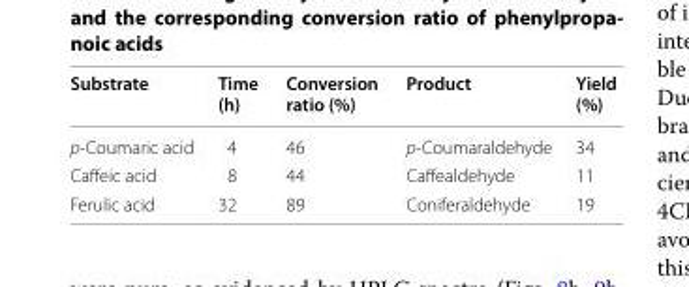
<table><thead><tr><td>Substrate</td><td>Time (h)</td><td>Conversion ratio (%)</td><td>Product</td><td>Yield (%)</td></tr></thead><tbody><tr><td>p-Coumaric acid</td><td>4</td><td>46</td><td>p-Coumaraldehyde</td><td>34</td></tr><tr><td>Caffeic acid</td><td>8</td><td>44</td><td>Caffealdehyde</td><td>11</td></tr><tr><td>Ferulic acid</td><td>32</td><td>89</td><td>Coniferaldehyde</td><td>19</td></tr></tbody></table>